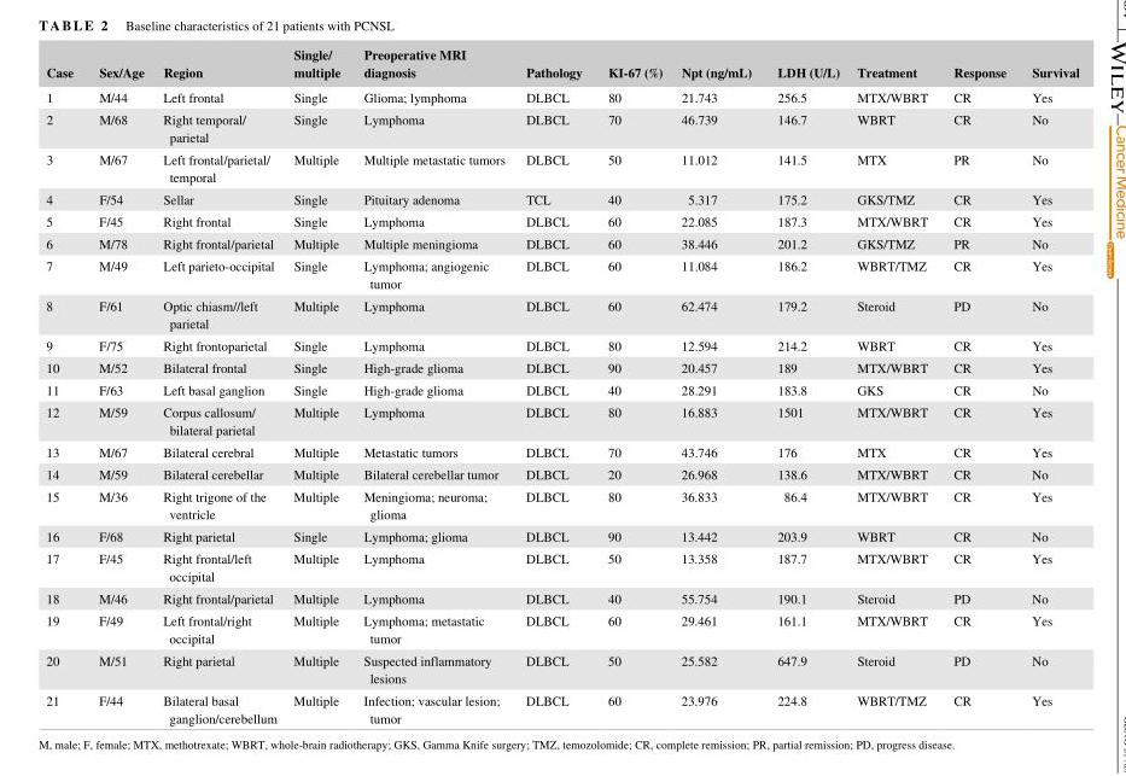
<table><thead><tr><td>Case</td><td>Sex/Age</td><td>Region</td><td>Single/ multiple</td><td>Preoperative MRI diagnosis</td><td>Pathology</td><td>KI- 67 (%)</td><td>Npt (ng/mL)</td><td>LDH (U/L)</td><td>Treatment</td><td>Response</td><td>Survival</td></tr></thead><tbody><tr><td>1</td><td>M/44</td><td>Left frontal</td><td>Single</td><td>Glioma; lymphoma</td><td>DLBCL</td><td>80</td><td>21.743</td><td>256.5</td><td>MTX/WBRT</td><td>CR</td><td>Yes</td></tr><tr><td>2</td><td>M/68</td><td>Right temporal/ parietal</td><td>Single</td><td>Lymphoma</td><td>DLBCL</td><td>70</td><td>46.739</td><td>146.7</td><td>WBRT</td><td>CR</td><td>No</td></tr><tr><td>3</td><td>M/67</td><td>Left frontal/parietal/ temporal</td><td>Multiple</td><td>Multiple metastatic tumors</td><td>DLBCL</td><td>50</td><td>11.012</td><td>141.5</td><td>MTX</td><td>PR</td><td>No</td></tr><tr><td>4</td><td>F/54</td><td>Sellar</td><td>Single</td><td>Pituitary adenoma</td><td>TCL</td><td>40</td><td>5.317</td><td>175.2</td><td>GKS/TMZ</td><td>CR</td><td>Yes</td></tr><tr><td>5</td><td>F/45</td><td>Right frontal</td><td>Single</td><td>Lymphoma</td><td>DLBCL</td><td>60</td><td>22.085</td><td>187.3</td><td>MTX/WBRT</td><td>CR</td><td>Yes</td></tr><tr><td>6</td><td>M/78</td><td>Right frontal/parietal</td><td>Multiple</td><td>Multiple meningioma</td><td>DLBCL</td><td>60</td><td>38.446</td><td>201.2</td><td>GKS/TMZ</td><td>PR</td><td>No</td></tr><tr><td>7</td><td>M/49</td><td>Left parieto- occipital</td><td>Single</td><td>Lymphoma; angiogenic tumor</td><td>DLBCL</td><td>60</td><td>11.084</td><td>186.2</td><td>WBRT/TMZ</td><td>CR</td><td>Yes</td></tr><tr><td>8</td><td>F/61</td><td>Optic chiasm//left parietal</td><td>Multiple</td><td>Lymphoma</td><td>DLBCL</td><td>60</td><td>62.474</td><td>179.2</td><td>Steroid</td><td>PD</td><td>No</td></tr><tr><td>9</td><td>F/75</td><td>Right frontoparietal</td><td>Single</td><td>Lymphoma</td><td>DLBCL</td><td>80</td><td>12.594</td><td>214.2</td><td>WBRT</td><td>CR</td><td>Yes</td></tr><tr><td>10</td><td>M/52</td><td>Bilateral frontal</td><td>Single</td><td>High- grade glioma</td><td>DLBCL</td><td>90</td><td>20.457</td><td>189</td><td>MTX/WBRT</td><td>CR</td><td>Yes</td></tr><tr><td>11</td><td>F/63</td><td>Left basal ganglion</td><td>Single</td><td>High- grade glioma</td><td>DLBCL</td><td>40</td><td>28.291</td><td>183.8</td><td>GKS</td><td>CR</td><td>No</td></tr><tr><td>12</td><td>M/59</td><td>Corpus callosum/ bilateral parietal</td><td>Multiple</td><td>Lymphoma</td><td>DLBCL</td><td>80</td><td>16.883</td><td>1501</td><td>MTX/WBRT</td><td>CR</td><td>Yes</td></tr><tr><td>13</td><td>M/67</td><td>Bilateral cerebral</td><td>Multiple</td><td>Metastatic tumors</td><td>DLBCL</td><td>70</td><td>43.746</td><td>176</td><td>MTX</td><td>CR</td><td>Yes</td></tr><tr><td>14</td><td>M/59</td><td>Bilateral cerebellar</td><td>Multiple</td><td>Bilateral cerebellar tumor</td><td>DLBCL</td><td>20</td><td>26.968</td><td>138.6</td><td>MTX/WBRT</td><td>CR</td><td>No</td></tr><tr><td>15</td><td>M/36</td><td>Right trigone of the ventricle</td><td>Multiple</td><td>Meningioma; neuroma; glioma</td><td>DLBCL</td><td>80</td><td>36.833</td><td>86.4</td><td>MTX/WBRT</td><td>CR</td><td>Yes</td></tr><tr><td>16</td><td>F/68</td><td>Right parietal</td><td>Single</td><td>Lymphoma; glioma</td><td>DLBCL</td><td>90</td><td>13.442</td><td>203.9</td><td>WBRT</td><td>CR</td><td>No</td></tr><tr><td>17</td><td>F/45</td><td>Right frontal/left occipital</td><td>Multiple</td><td>Lymphoma</td><td>DLBCL</td><td>50</td><td>13.358</td><td>187.7</td><td>MTX/WBRT</td><td>CR</td><td>Yes</td></tr><tr><td>18</td><td>M/46</td><td>Right frontal/parietal</td><td>Multiple</td><td>Lymphoma</td><td>DLBCL</td><td>40</td><td>55.754</td><td>190.1</td><td>Steroid</td><td>PD</td><td>No</td></tr><tr><td>19</td><td>F/49</td><td>Left frontal/right occipital</td><td>Multiple</td><td>Lymphoma; metastatic tumor</td><td>DLBCL</td><td>60</td><td>29.461</td><td>161.1</td><td>MTX/WBRT</td><td>CR</td><td>Yes</td></tr><tr><td>20</td><td>M/51</td><td>Right parietal</td><td>Multiple</td><td>Suspected inflammatory lesions</td><td>DLBCL</td><td>50</td><td>25.582</td><td>647.9</td><td>Steroid</td><td>PD</td><td>No</td></tr><tr><td>21</td><td>F/44</td><td>Bilateral basal ganglion/cerebellum</td><td>Multiple</td><td>Infection; vascular lesion; tumor</td><td>DLBCL</td><td>60</td><td>23.976</td><td>224.8</td><td>WBRT/TMZ</td><td>CR</td><td>Yes</td></tr></tbody></table>